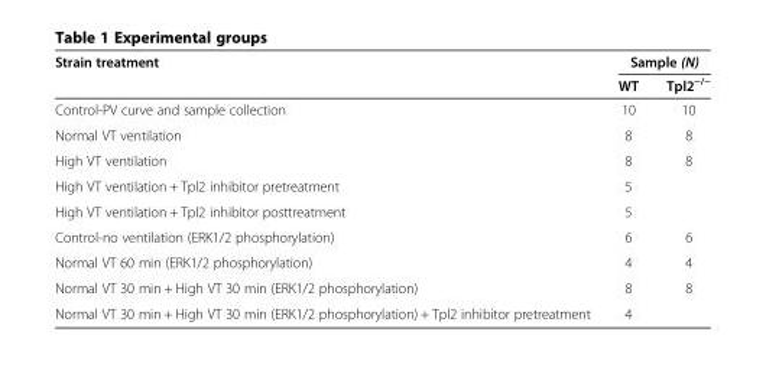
<table><thead><tr><td rowspan="2">Strain treatment</td><td colspan="2">Sample (N)</td></tr><tr><td>WT</td><td>Tpl2<sup>−/−</sup></td></tr></thead><tbody><tr><td>Control-PV curve and sample collection</td><td>10</td><td>10</td></tr><tr><td>Normal VT ventilation</td><td>8</td><td>8</td></tr><tr><td>High VT ventilation</td><td>8</td><td>8</td></tr><tr><td>High VT ventilation + Tpl2 inhibitor pretreatment</td><td>5</td><td></td></tr><tr><td>High VT ventilation + Tpl2 inhibitor posttreatment</td><td>5</td><td></td></tr><tr><td>Control-no ventilation (ERK1/2 phosphorylation)</td><td>6</td><td>6</td></tr><tr><td>Normal VT 60 min (ERK1/2 phosphorylation)</td><td>4</td><td>4</td></tr><tr><td>Normal VT 30 min + High VT 30 min (ERK1/2 phosphorylation)</td><td>8</td><td>8</td></tr><tr><td>Normal VT 30 min + High VT 30 min (ERK1/2 phosphorylation) + Tpl2 inhibitor pretreatment</td><td>4</td><td></td></tr></tbody></table>